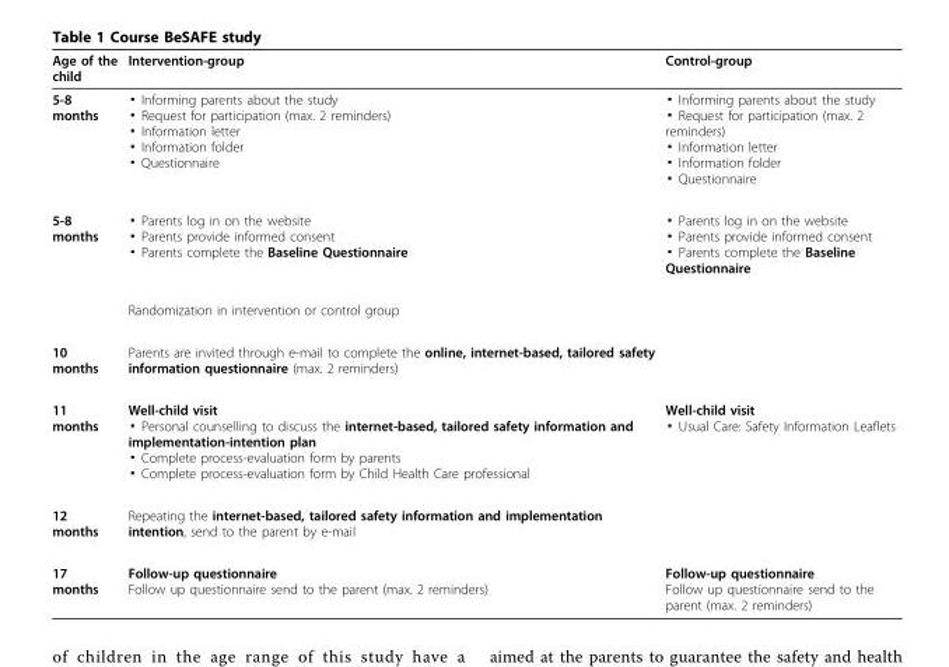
<table><thead><tr><td>Age of the child</td><td>Intervention-group</td><td>Control-group</td></tr></thead><tbody><tr><td>5-8 months</td><td>▪ Informing parents about the study ▪ Request for participation (max. 2 reminders) ▪ Information letter ▪ Information folder ▪ Questionnaire</td><td>▪ Informing parents about the study ▪ Request for participation (max. 2 reminders) ▪ Information letter ▪ Information folder ▪ Questionnaire</td></tr><tr><td rowspan="2">5-8 months</td><td>▪ Parents log in on the website ▪ Parents provide informed consent ▪ Parents complete the Baseline Questionnaire</td><td>▪ Parents log in on the website ▪ Parents provide informed consent ▪ Parents complete the Baseline Questionnaire</td></tr><tr><td colspan="2">Randomization in intervention or control group</td></tr><tr><td>10 months</td><td>Parents are invited through e-mail to complete the online, internet-based, tailored safety information questionnaire (max. 2 reminders)</td><td></td></tr><tr><td>11 months</td><td>Well-child visit ▪ Personal counselling to discuss the internet-based, tailored safety information and implementation-intention plan ▪ Complete process-evaluation form by parents ▪ Complete process-evaluation form by Child Health Care professional</td><td>Well-child visit ▪ Usual Care: Safety Information Leaflets</td></tr><tr><td>12 months</td><td>Repeating the internet-based, tailored safety information and implementation intention, send to the parent by e-mail</td><td></td></tr><tr><td>17 months</td><td>Follow-up questionnaire Follow up questionnaire send to the parent (max. 2 reminders)</td><td>Follow-up questionnaire Follow up questionnaire send to the parent (max. 2 reminders)</td></tr></tbody></table>